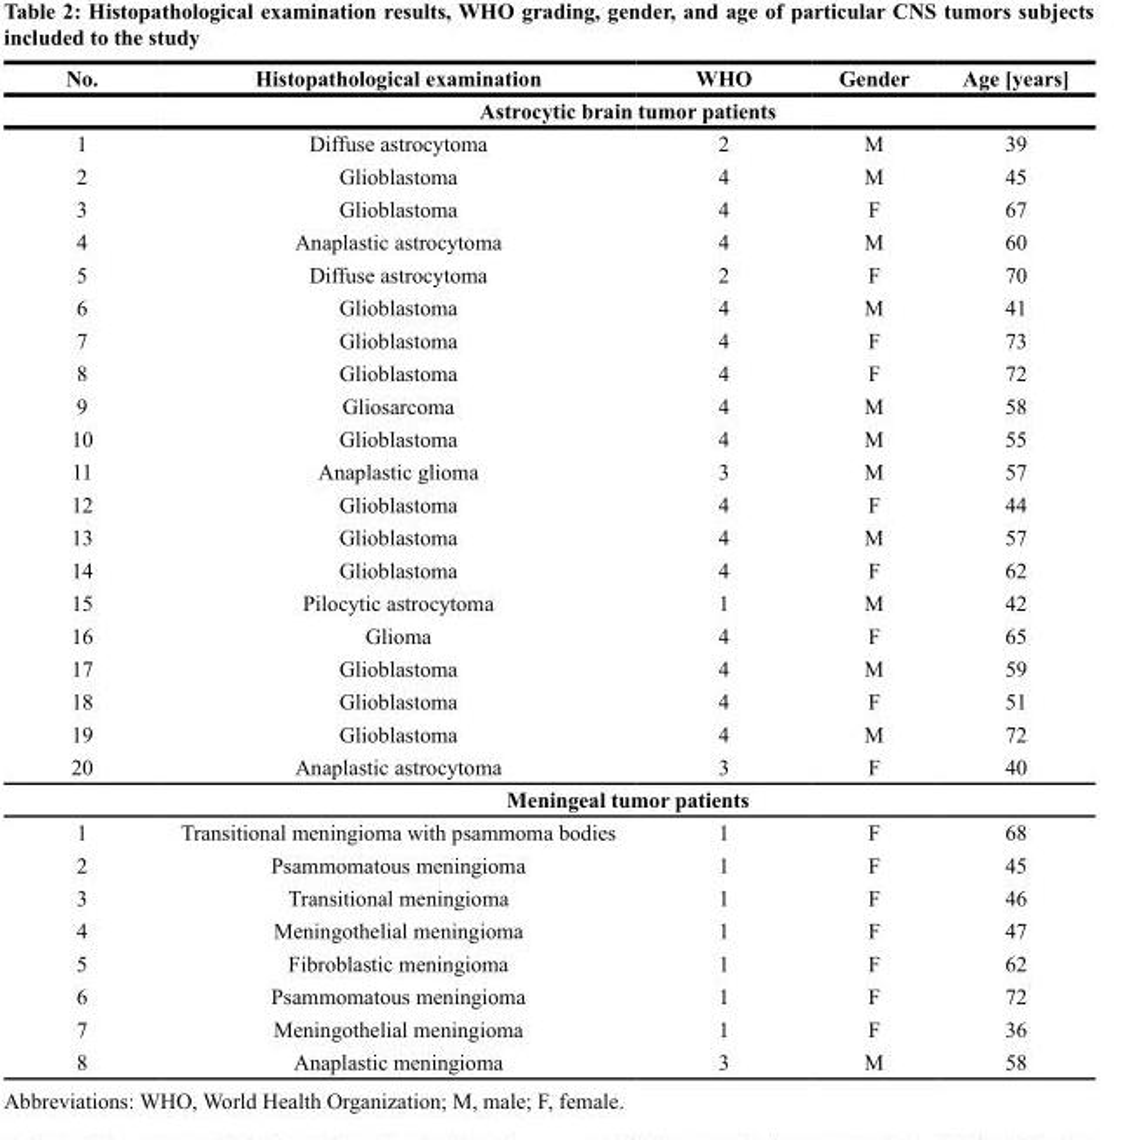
<table><thead><tr><td>No.</td><td>Histopathological examination</td><td>WHO</td><td>Gender</td><td>Age [years]</td></tr><tr><td colspan="5">Astrocytic brain tumor patients</td></tr></thead><tbody><tr><td>1</td><td>Diffuse astrocytoma</td><td>2</td><td>M</td><td>39</td></tr><tr><td>2</td><td>Glioblastoma</td><td>4</td><td>M</td><td>45</td></tr><tr><td>3</td><td>Glioblastoma</td><td>4</td><td>F</td><td>67</td></tr><tr><td>4</td><td>Anaplastic astrocytoma</td><td>4</td><td>M</td><td>60</td></tr><tr><td>5</td><td>Diffuse astrocytoma</td><td>2</td><td>F</td><td>70</td></tr><tr><td>6</td><td>Glioblastoma</td><td>4</td><td>M</td><td>41</td></tr><tr><td>7</td><td>Glioblastoma</td><td>4</td><td>F</td><td>73</td></tr><tr><td>8</td><td>Glioblastoma</td><td>4</td><td>F</td><td>72</td></tr><tr><td>9</td><td>Gliosarcoma</td><td>4</td><td>M</td><td>58</td></tr><tr><td>10</td><td>Glioblastoma</td><td>4</td><td>M</td><td>55</td></tr><tr><td>11</td><td>Anaplastic glioma</td><td>3</td><td>M</td><td>57</td></tr><tr><td>12</td><td>Glioblastoma</td><td>4</td><td>F</td><td>44</td></tr><tr><td>13</td><td>Glioblastoma</td><td>4</td><td>M</td><td>57</td></tr><tr><td>14</td><td>Glioblastoma</td><td>4</td><td>F</td><td>62</td></tr><tr><td>15</td><td>Pilocytic astrocytoma</td><td>1</td><td>M</td><td>42</td></tr><tr><td>16</td><td>Glioma</td><td>4</td><td>F</td><td>65</td></tr><tr><td>17</td><td>Glioblastoma</td><td>4</td><td>M</td><td>59</td></tr><tr><td>18</td><td>Glioblastoma</td><td>4</td><td>F</td><td>51</td></tr><tr><td>19</td><td>Glioblastoma</td><td>4</td><td>M</td><td>72</td></tr><tr><td>20</td><td>Anaplastic astrocytoma</td><td>3</td><td>F</td><td>40</td></tr><tr><td colspan="5">Meningeal tumor patients</td></tr><tr><td>1</td><td>Transitional meningioma with psammoma bodies</td><td>1</td><td>F</td><td>68</td></tr><tr><td>2</td><td>Psammomatous meningioma</td><td>1</td><td>F</td><td>45</td></tr><tr><td>3</td><td>Transitional meningioma</td><td>1</td><td>F</td><td>46</td></tr><tr><td>4</td><td>Meningothelial meningioma</td><td>1</td><td>F</td><td>47</td></tr><tr><td>5</td><td>Fibroblastic meningioma</td><td>1</td><td>F</td><td>62</td></tr><tr><td>6</td><td>Psammomatous meningioma</td><td>1</td><td>F</td><td>72</td></tr><tr><td>7</td><td>Meningothelial meningioma</td><td>1</td><td>F</td><td>36</td></tr><tr><td>8</td><td>Anaplastic meningioma</td><td>3</td><td>M</td><td>58</td></tr></tbody></table>